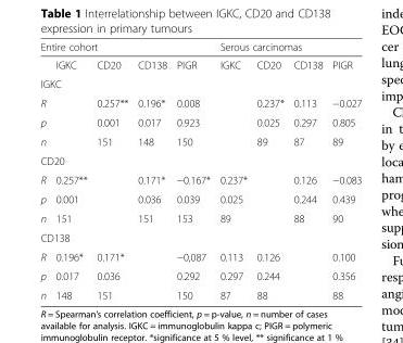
<table><thead><tr><td colspan="5">Entire cohort</td><td colspan="4">Serous carcinomas</td></tr><tr><td></td><td>IGKC</td><td>CD20</td><td>CD138</td><td>PIGR</td><td>IGKC</td><td>CD20</td><td>CD138</td><td>PIGR</td></tr></thead><tbody><tr><td colspan="9">IGKC</td></tr><tr><td>R</td><td></td><td>0.257**</td><td>0.196*</td><td>0.008</td><td></td><td>0.237*</td><td>0.113</td><td>−0.027</td></tr><tr><td>p</td><td></td><td>0.001</td><td>0.017</td><td>0.923</td><td></td><td>0.025</td><td>0.297</td><td>0.805</td></tr><tr><td>n</td><td></td><td>151</td><td>148</td><td>150</td><td></td><td>89</td><td>87</td><td>89</td></tr><tr><td colspan="9">CD20</td></tr><tr><td>R</td><td>0.257**</td><td></td><td>0.171*</td><td>−0.167*</td><td>0.237*</td><td></td><td>0.126</td><td>−0.083</td></tr><tr><td>p</td><td>0.001</td><td></td><td>0.036</td><td>0.039</td><td>0.025</td><td></td><td>0.244</td><td>0.439</td></tr><tr><td>n</td><td>151</td><td></td><td>151</td><td>153</td><td>89</td><td></td><td>88</td><td>90</td></tr><tr><td colspan="9">CD138</td></tr><tr><td>R</td><td>0.196*</td><td>0.171*</td><td></td><td>−0,087</td><td>0.113</td><td>0.126</td><td></td><td>0.100</td></tr><tr><td>p</td><td>0.017</td><td>0.036</td><td></td><td>0.292</td><td>0.297</td><td>0.244</td><td></td><td>0.356</td></tr><tr><td>n</td><td>148</td><td>151</td><td></td><td>150</td><td>87</td><td>88</td><td></td><td>88</td></tr></tbody></table>